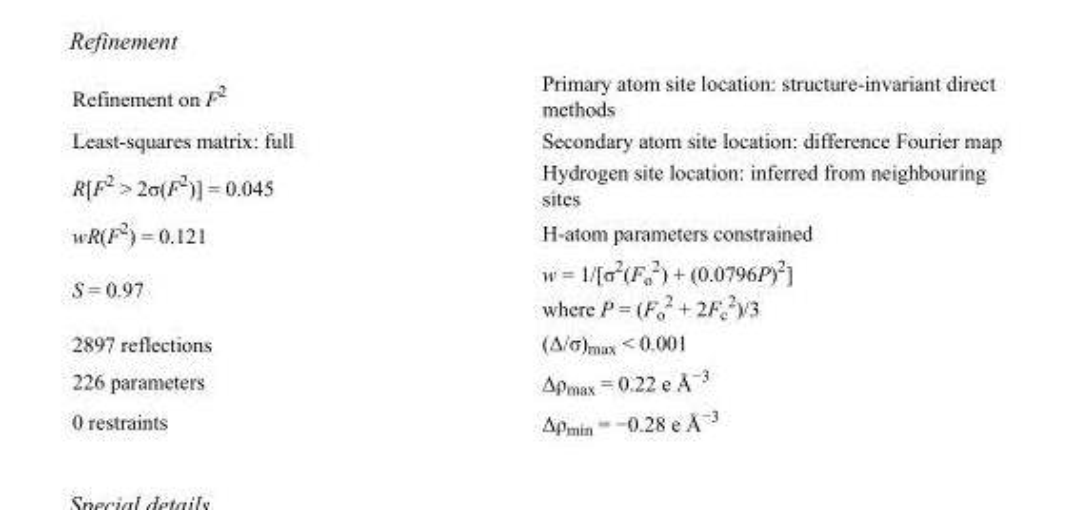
<table><tbody><tr><td>Refinement on F<sup>2</sup></td><td>Primary atom site location: structure-invariant direct methods</td></tr><tr><td>Least-squares matrix: full</td><td>Secondary atom site location: difference Fourier map</td></tr><tr><td>R[F<sup>2</sup> &gt; 2σ(F<sup>2</sup>)] = 0.045</td><td>Hydrogen site location: inferred from neighbouring sites</td></tr><tr><td>wR(F<sup>2</sup>) = 0.121</td><td>H-atom parameters constrained</td></tr><tr><td>S = 0.97</td><td>w = 1/[σ<sup>2</sup>(F<sub>o</sub> <sup>2</sup>) + (0.0796P)<sup>2</sup>] where P = (F<sub>o</sub> <sup>2</sup> + 2F<sub>c</sub> <sup>2</sup>)/3</td></tr><tr><td>2897 reflections</td><td>(Δ/σ)<sub>max</sub> &lt; 0.001</td></tr><tr><td>226 parameters</td><td>Δρ<sub>max</sub> = 0.22 e Å<sup>−3</sup></td></tr><tr><td>0 restraints</td><td>Δρ<sub>min</sub> = −0.28 e Å<sup>−3</sup></td></tr></tbody></table>